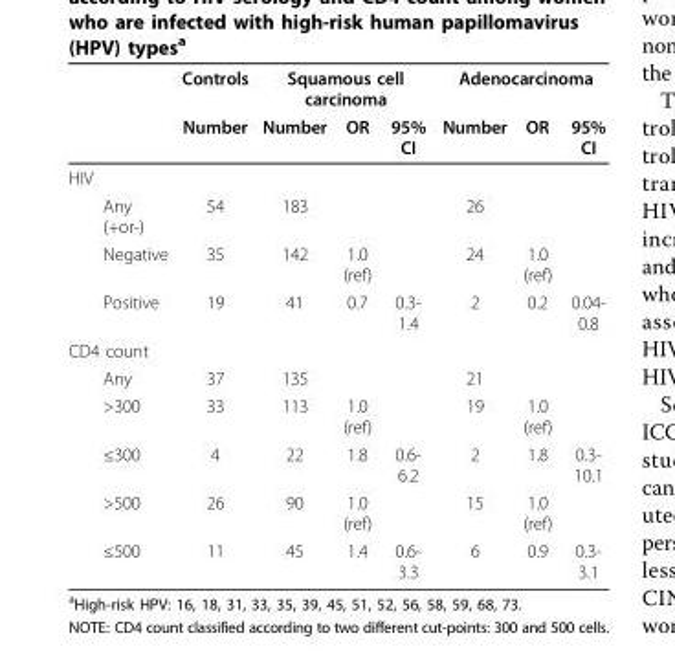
<table><thead><tr><td rowspan="2"></td><td rowspan="2">Controls Number</td><td colspan="3">Squamous cell carcinoma</td><td colspan="3">Adenocarcinoma</td></tr><tr><td>Number</td><td>OR</td><td>95% CI</td><td>Number</td><td>OR</td><td>95% CI</td></tr></thead><tbody><tr><td colspan="8">HIV</td></tr><tr><td>Any (+or-)</td><td>54</td><td>183</td><td></td><td></td><td>26</td><td></td><td></td></tr><tr><td>Negative</td><td>35</td><td>142</td><td>1.0 (ref)</td><td></td><td>24</td><td>1.0 (ref)</td><td></td></tr><tr><td>Positive</td><td>19</td><td>41</td><td>0.7</td><td>0.3- 1.4</td><td>2</td><td>0.2</td><td>0.04- 0.8</td></tr><tr><td colspan="8">CD4 count</td></tr><tr><td>Any</td><td>37</td><td>135</td><td></td><td></td><td>21</td><td></td><td></td></tr><tr><td>&gt;300</td><td>33</td><td>113</td><td>1.0 (ref)</td><td></td><td>19</td><td>1.0 (ref)</td><td></td></tr><tr><td>≤300</td><td>4</td><td>22</td><td>1.8</td><td>0.6- 6.2</td><td>2</td><td>1.8</td><td>0.3- 10.1</td></tr><tr><td>&gt;500</td><td>26</td><td>90</td><td>1.0 (ref)</td><td></td><td>15</td><td>1.0 (ref)</td><td></td></tr><tr><td>≤500</td><td>11</td><td>45</td><td>1.4</td><td>0.6- 3.3</td><td>6</td><td>0.9</td><td>0.3- 3.1</td></tr></tbody></table>